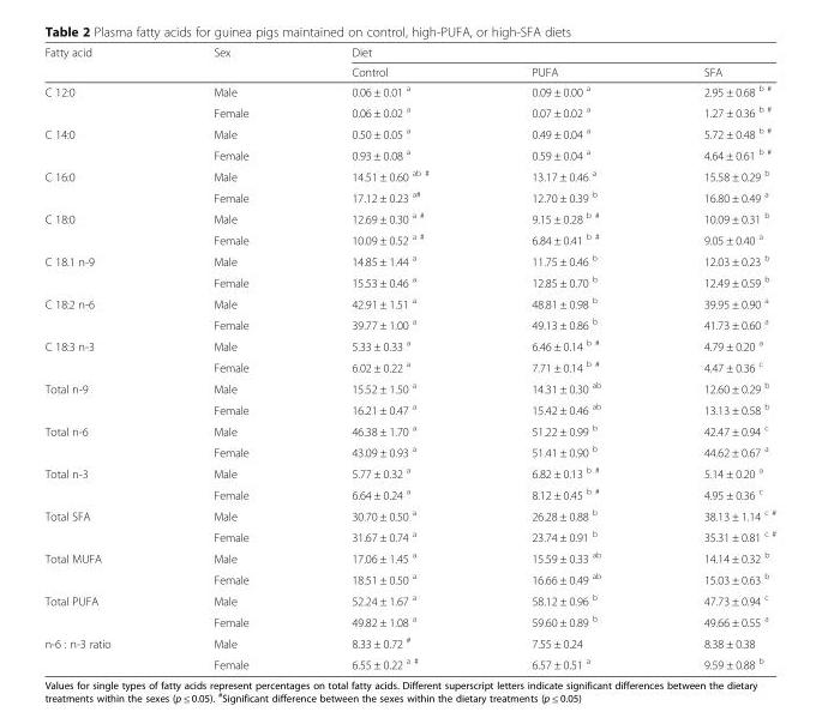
<table><thead><tr><td rowspan="2">Fatty acid</td><td rowspan="2">Sex</td><td colspan="3">Diet</td></tr><tr><td>Control</td><td>PUFA</td><td>SFA</td></tr></thead><tbody><tr><td rowspan="2">C 12:0</td><td>Male</td><td>0.06 ± 0.01 <sup>a</sup></td><td>0.09 ± 0.00 <sup>a</sup></td><td>2.95 ± 0.68 <sup>b #</sup></td></tr><tr><td>Female</td><td>0.06 ± 0.02 <sup>a</sup></td><td>0.07 ± 0.02 <sup>a</sup></td><td>1.27 ± 0.36 <sup>b #</sup></td></tr><tr><td rowspan="2">C 14:0</td><td>Male</td><td>0.50 ± 0.05 <sup>a</sup></td><td>0.49 ± 0.04 <sup>a</sup></td><td>5.72 ± 0.48 <sup>b #</sup></td></tr><tr><td>Female</td><td>0.93 ± 0.08 <sup>a</sup></td><td>0.59 ± 0.04 <sup>a</sup></td><td>4.64 ± 0.61 <sup>b #</sup></td></tr><tr><td rowspan="2">C 16:0</td><td>Male</td><td>14.51 ± 0.60 <sup>ab #</sup></td><td>13.17 ± 0.46 <sup>a</sup></td><td>15.58 ± 0.29 <sup>b</sup></td></tr><tr><td>Female</td><td>17.12 ± 0.23 <sup>a#</sup></td><td>12.70 ± 0.39 <sup>b</sup></td><td>16.80 ± 0.49 <sup>a</sup></td></tr><tr><td rowspan="2">C 18:0</td><td>Male</td><td>12.69 ± 0.30 <sup>a #</sup></td><td>9.15 ± 0.28 <sup>b #</sup></td><td>10.09 ± 0.31 <sup>b</sup></td></tr><tr><td>Female</td><td>10.09 ± 0.52 <sup>a #</sup></td><td>6.84 ± 0.41 <sup>b #</sup></td><td>9.05 ± 0.40 <sup>a</sup></td></tr><tr><td rowspan="2">C 18.1 n-9</td><td>Male</td><td>14.85 ± 1.44 <sup>a</sup></td><td>11.75 ± 0.46 <sup>b</sup></td><td>12.03 ± 0.23 <sup>b</sup></td></tr><tr><td>Female</td><td>15.53 ± 0.46 <sup>a</sup></td><td>12.85 ± 0.70 <sup>b</sup></td><td>12.49 ± 0.59 <sup>b</sup></td></tr><tr><td rowspan="2">C 18:2 n-6</td><td>Male</td><td>42.91 ± 1.51 <sup>a</sup></td><td>48.81 ± 0.98 <sup>b</sup></td><td>39.95 ± 0.90 <sup>a</sup></td></tr><tr><td>Female</td><td>39.77 ± 1.00 <sup>a</sup></td><td>49.13 ± 0.86 <sup>b</sup></td><td>41.73 ± 0.60 <sup>a</sup></td></tr><tr><td rowspan="2">C 18:3 n-3</td><td>Male</td><td>5.33 ± 0.33 <sup>a</sup></td><td>6.46 ± 0.14 <sup>b #</sup></td><td>4.79 ± 0.20 <sup>a</sup></td></tr><tr><td>Female</td><td>6.02 ± 0.22 <sup>a</sup></td><td>7.71 ± 0.14 <sup>b #</sup></td><td>4.47 ± 0.36 <sup>c</sup></td></tr><tr><td rowspan="2">Total n-9</td><td>Male</td><td>15.52 ± 1.50 <sup>a</sup></td><td>14.31 ± 0.30 <sup>ab</sup></td><td>12.60 ± 0.29 <sup>b</sup></td></tr><tr><td>Female</td><td>16.21 ± 0.47 <sup>a</sup></td><td>15.42 ± 0.46 <sup>ab</sup></td><td>13.13 ± 0.58 <sup>b</sup></td></tr><tr><td rowspan="2">Total n-6</td><td>Male</td><td>46.38 ± 1.70 <sup>a</sup></td><td>51.22 ± 0.99 <sup>b</sup></td><td>42.47 ± 0.94 <sup>c</sup></td></tr><tr><td>Female</td><td>43.09 ± 0.93 <sup>a</sup></td><td>51.41 ± 0.90 <sup>b</sup></td><td>44.62 ± 0.67 <sup>a</sup></td></tr><tr><td rowspan="2">Total n-3</td><td>Male</td><td>5.77 ± 0.32 <sup>a</sup></td><td>6.82 ± 0.13 <sup>b #</sup></td><td>5.14 ± 0.20 <sup>a</sup></td></tr><tr><td>Female</td><td>6.64 ± 0.24 <sup>a</sup></td><td>8.12 ± 0.45 <sup>b #</sup></td><td>4.95 ± 0.36 <sup>c</sup></td></tr><tr><td rowspan="2">Total SFA</td><td>Male</td><td>30.70 ± 0.50 <sup>a</sup></td><td>26.28 ± 0.88 <sup>b</sup></td><td>38.13 ± 1.14 <sup>c #</sup></td></tr><tr><td>Female</td><td>31.67 ± 0.74 <sup>a</sup></td><td>23.74 ± 0.91 <sup>b</sup></td><td>35.31 ± 0.81 <sup>c #</sup></td></tr><tr><td rowspan="2">Total MUFA</td><td>Male</td><td>17.06 ± 1.45 <sup>a</sup></td><td>15.59 ± 0.33 <sup>ab</sup></td><td>14.14 ± 0.32 <sup>b</sup></td></tr><tr><td>Female</td><td>18.51 ± 0.50 <sup>a</sup></td><td>16.66 ± 0.49 <sup>ab</sup></td><td>15.03 ± 0.63 <sup>b</sup></td></tr><tr><td rowspan="2">Total PUFA</td><td>Male</td><td>52.24 ± 1.67 <sup>a</sup></td><td>58.12 ± 0.96 <sup>b</sup></td><td>47.73 ± 0.94 <sup>c</sup></td></tr><tr><td>Female</td><td>49.82 ± 1.08 <sup>a</sup></td><td>59.60 ± 0.89 <sup>b</sup></td><td>49.66 ± 0.55 <sup>a</sup></td></tr><tr><td rowspan="2">n-6 : n-3 ratio</td><td>Male</td><td>8.33 ± 0.72 <sup>#</sup></td><td>7.55 ± 0.24</td><td>8.38 ± 0.38</td></tr><tr><td>Female</td><td>6.55 ± 0.22 <sup>a #</sup></td><td>6.57 ± 0.51 <sup>a</sup></td><td>9.59 ± 0.88 <sup>b</sup></td></tr></tbody></table>